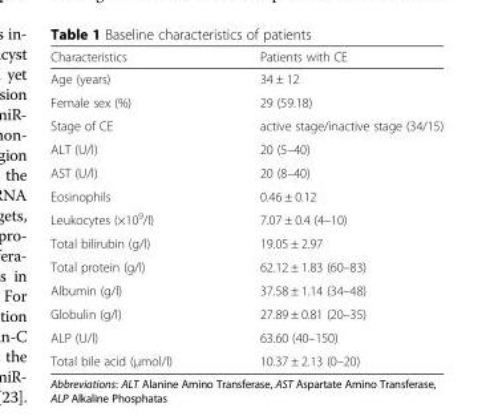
<table><thead><tr><td>Characteristics</td><td>Patients with CE</td></tr></thead><tbody><tr><td>Age (years)</td><td>34 ± 12</td></tr><tr><td>Female sex (%)</td><td>29 (59.18)</td></tr><tr><td>Stage of CE</td><td>active stage/inactive stage (34/15)</td></tr><tr><td>ALT (U/l)</td><td>20 (5–40)</td></tr><tr><td>AST (U/l)</td><td>20 (8–40)</td></tr><tr><td>Eosinophils</td><td>0.46 ± 0.12</td></tr><tr><td>Leukocytes (×10<sup>9</sup>/l)</td><td>7.07 ± 0.4 (4–10)</td></tr><tr><td>Total bilirubin (g/l)</td><td>19.05 ± 2.97</td></tr><tr><td>Total protein (g/l)</td><td>62.12 ± 1.83 (60–83)</td></tr><tr><td>Albumin (g/l)</td><td>37.58 ± 1.14 (34–48)</td></tr><tr><td>Globulin (g/l)</td><td>27.89 ± 0.81 (20–35)</td></tr><tr><td>ALP (U/l)</td><td>63.60 (40–150)</td></tr><tr><td>Total bile acid (μmol/l)</td><td>10.37 ± 2.13 (0–20)</td></tr></tbody></table>